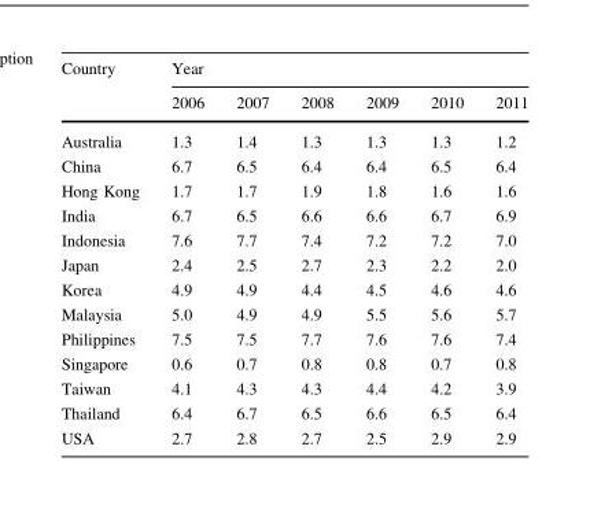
<table><thead><tr><td rowspan="2">Country</td><td colspan="6">Year</td></tr><tr><td>2006</td><td>2007</td><td>2008</td><td>2009</td><td>2010</td><td>2011</td></tr></thead><tbody><tr><td>Australia</td><td>1.3</td><td>1.4</td><td>1.3</td><td>1.3</td><td>1.3</td><td>1.2</td></tr><tr><td>China</td><td>6.7</td><td>6.5</td><td>6.4</td><td>6.4</td><td>6.5</td><td>6.4</td></tr><tr><td>Hong Kong</td><td>1.7</td><td>1.7</td><td>1.9</td><td>1.8</td><td>1.6</td><td>1.6</td></tr><tr><td>India</td><td>6.7</td><td>6.5</td><td>6.6</td><td>6.6</td><td>6.7</td><td>6.9</td></tr><tr><td>Indonesia</td><td>7.6</td><td>7.7</td><td>7.4</td><td>7.2</td><td>7.2</td><td>7.0</td></tr><tr><td>Japan</td><td>2.4</td><td>2.5</td><td>2.7</td><td>2.3</td><td>2.2</td><td>2.0</td></tr><tr><td>Korea</td><td>4.9</td><td>4.9</td><td>4.4</td><td>4.5</td><td>4.6</td><td>4.6</td></tr><tr><td>Malaysia</td><td>5.0</td><td>4.9</td><td>4.9</td><td>5.5</td><td>5.6</td><td>5.7</td></tr><tr><td>Philippines</td><td>7.5</td><td>7.5</td><td>7.7</td><td>7.6</td><td>7.6</td><td>7.4</td></tr><tr><td>Singapore</td><td>0.6</td><td>0.7</td><td>0.8</td><td>0.8</td><td>0.7</td><td>0.8</td></tr><tr><td>Taiwan</td><td>4.1</td><td>4.3</td><td>4.3</td><td>4.4</td><td>4.2</td><td>3.9</td></tr><tr><td>Thailand</td><td>6.4</td><td>6.7</td><td>6.5</td><td>6.6</td><td>6.5</td><td>6.4</td></tr><tr><td>USA</td><td>2.7</td><td>2.8</td><td>2.7</td><td>2.5</td><td>2.9</td><td>2.9</td></tr></tbody></table>